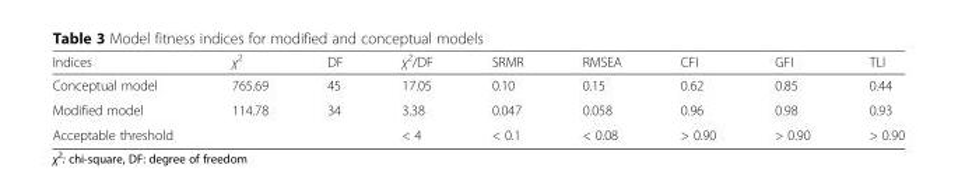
<table><thead><tr><td>Indices</td><td>χ<sup>2</sup></td><td>DF</td><td>χ<sup>2</sup>/DF</td><td>SRMR</td><td>RMSEA</td><td>CFI</td><td>GFI</td><td>TLI</td></tr></thead><tbody><tr><td>Conceptual model</td><td>765.69</td><td>45</td><td>17.05</td><td>0.10</td><td>0.15</td><td>0.62</td><td>0.85</td><td>0.44</td></tr><tr><td>Modified model</td><td>114.78</td><td>34</td><td>3.38</td><td>0.047</td><td>0.058</td><td>0.96</td><td>0.98</td><td>0.93</td></tr><tr><td>Acceptable threshold</td><td></td><td></td><td>&lt; 4</td><td>&lt; 0.1</td><td>&lt; 0.08</td><td>&gt; 0.90</td><td>&gt; 0.90</td><td>&gt; 0.90</td></tr></tbody></table>